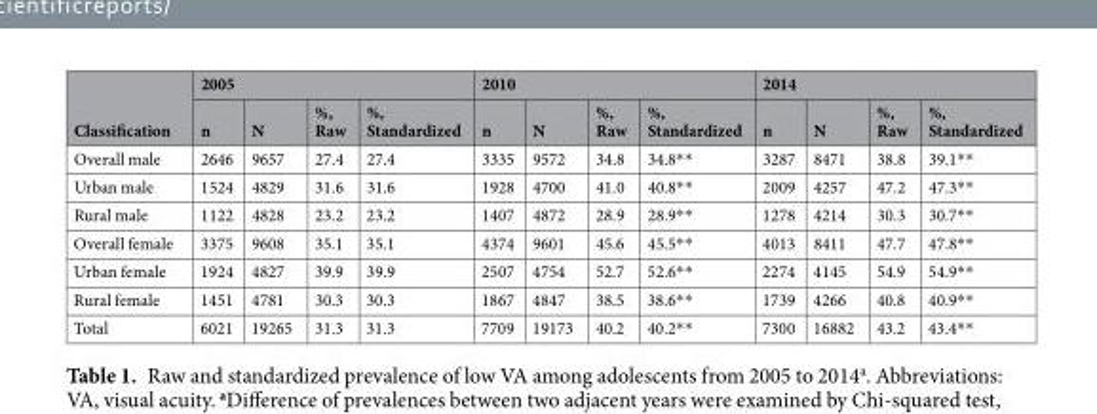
<table><thead><tr><td rowspan="2">Classification</td><td colspan="4">2005</td><td colspan="4">2010</td><td colspan="4">2014</td></tr><tr><td>n</td><td>N</td><td>%, Raw</td><td>%, Standardized</td><td>n</td><td>N</td><td>%, Raw</td><td>%, Standardized</td><td>n</td><td>N</td><td>%, Raw</td><td>%, Standardized</td></tr></thead><tbody><tr><td>Overall male</td><td>2646</td><td>9657</td><td>27.4</td><td>27.4</td><td>3335</td><td>9572</td><td>34.8</td><td>34.8**</td><td>3287</td><td>8471</td><td>38.8</td><td>39.1**</td></tr><tr><td>Urban male</td><td>1524</td><td>4829</td><td>31.6</td><td>31.6</td><td>1928</td><td>4700</td><td>41.0</td><td>40.8**</td><td>2009</td><td>4257</td><td>47.2</td><td>47.3**</td></tr><tr><td>Rural male</td><td>1122</td><td>4828</td><td>23.2</td><td>23.2</td><td>1407</td><td>4872</td><td>28.9</td><td>28.9**</td><td>1278</td><td>4214</td><td>30.3</td><td>30.7**</td></tr><tr><td>Overall female</td><td>3375</td><td>9608</td><td>35.1</td><td>35.1</td><td>4374</td><td>9601</td><td>45.6</td><td>45.5**</td><td>4013</td><td>8411</td><td>47.7</td><td>47.8**</td></tr><tr><td>Urban female</td><td>1924</td><td>4827</td><td>39.9</td><td>39.9</td><td>2507</td><td>4754</td><td>52.7</td><td>52.6**</td><td>2274</td><td>4145</td><td>54.9</td><td>54.9**</td></tr><tr><td>Rural female</td><td>1451</td><td>4781</td><td>30.3</td><td>30.3</td><td>1867</td><td>4847</td><td>38.5</td><td>38.6**</td><td>1739</td><td>4266</td><td>40.8</td><td>40.9**</td></tr><tr><td>Total</td><td>6021</td><td>19265</td><td>31.3</td><td>31.3</td><td>7709</td><td>19173</td><td>40.2</td><td>40.2**</td><td>7300</td><td>16882</td><td>43.2</td><td>43.4**</td></tr></tbody></table>